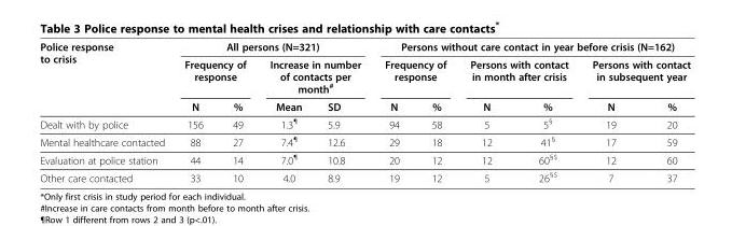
<table><thead><tr><td rowspan="3">Police response to crisis</td><td colspan="4">All persons (N=321)</td><td colspan="6">Persons without care contact in year before crisis (N=162)</td></tr><tr><td colspan="2">Frequency of response</td><td colspan="2">Increase in number of contacts per month<sup>#</sup></td><td colspan="2">Frequency of response</td><td colspan="2">Persons with contact in month after crisis</td><td colspan="2">Persons with contact in subsequent year</td></tr><tr><td>N</td><td>%</td><td>Mean</td><td>SD</td><td>N</td><td>%</td><td>N</td><td>%</td><td>N</td><td>%</td></tr></thead><tbody><tr><td>Dealt with by police</td><td>156</td><td>49</td><td>1.3<sup>¶</sup></td><td>5.9</td><td>94</td><td>58</td><td>5</td><td>5<sup>§</sup></td><td>19</td><td>20</td></tr><tr><td>Mental healthcare contacted</td><td>88</td><td>27</td><td>7.4<sup>¶</sup></td><td>12.6</td><td>29</td><td>18</td><td>12</td><td>41<sup>§</sup></td><td>17</td><td>59</td></tr><tr><td>Evaluation at police station</td><td>44</td><td>14</td><td>7.0<sup>¶</sup></td><td>10.8</td><td>20</td><td>12</td><td>12</td><td>60<sup>§$</sup></td><td>12</td><td>60</td></tr><tr><td>Other care contacted</td><td>33</td><td>10</td><td>4.0</td><td>8.9</td><td>19</td><td>12</td><td>5</td><td>26<sup>§$</sup></td><td>7</td><td>37</td></tr></tbody></table>